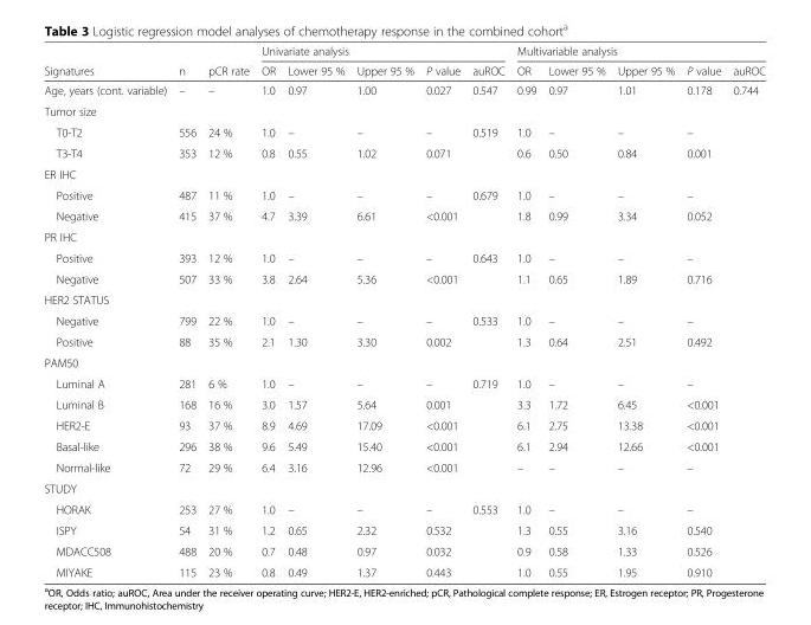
<table><thead><tr><td rowspan="2">Signatures</td><td rowspan="2">n</td><td rowspan="2">pCR rate</td><td colspan="5">Univariate analysis</td><td colspan="5">Multivariable analysis</td></tr><tr><td>OR</td><td>Lower 95 %</td><td>Upper 95 %</td><td>P value</td><td>auROC</td><td>OR</td><td>Lower 95 %</td><td>Upper 95 %</td><td>P value</td><td>auROC</td></tr></thead><tbody><tr><td>Age, years (cont. variable)</td><td>–</td><td>–</td><td>1.0</td><td>0.97</td><td>1.00</td><td>0.027</td><td>0.547</td><td>0.99</td><td>0.97</td><td>1.01</td><td>0.178</td><td rowspan="24">0.744</td></tr><tr><td colspan="12">Tumor size</td></tr><tr><td>T0-T2</td><td>556</td><td>24 %</td><td>1.0</td><td>–</td><td>–</td><td>–</td><td rowspan="2">0.519</td><td>1.0</td><td>–</td><td>–</td><td>–</td></tr><tr><td>T3-T4</td><td>353</td><td>12 %</td><td>0.8</td><td>0.55</td><td>1.02</td><td>0.071</td><td>0.6</td><td>0.50</td><td>0.84</td><td>0.001</td></tr><tr><td colspan="12">ER IHC</td></tr><tr><td>Positive</td><td>487</td><td>11 %</td><td>1.0</td><td>–</td><td>–</td><td>–</td><td rowspan="2">0.679</td><td>1.0</td><td>–</td><td>–</td><td>–</td></tr><tr><td>Negative</td><td>415</td><td>37 %</td><td>4.7</td><td>3.39</td><td>6.61</td><td>&lt;0.001</td><td>1.8</td><td>0.99</td><td>3.34</td><td>0.052</td></tr><tr><td colspan="12">PR IHC</td></tr><tr><td>Positive</td><td>393</td><td>12 %</td><td>1.0</td><td>–</td><td>–</td><td>–</td><td rowspan="2">0.643</td><td>1.0</td><td>–</td><td>–</td><td>–</td></tr><tr><td>Negative</td><td>507</td><td>33 %</td><td>3.8</td><td>2.64</td><td>5.36</td><td>&lt;0.001</td><td>1.1</td><td>0.65</td><td>1.89</td><td>0.716</td></tr><tr><td colspan="12">HER2 STATUS</td></tr><tr><td>Negative</td><td>799</td><td>22 %</td><td>1.0</td><td>–</td><td>–</td><td>–</td><td rowspan="2">0.533</td><td>1.0</td><td>–</td><td>–</td><td>–</td></tr><tr><td>Positive</td><td>88</td><td>35 %</td><td>2.1</td><td>1.30</td><td>3.30</td><td>0.002</td><td>1.3</td><td>0.64</td><td>2.51</td><td>0.492</td></tr><tr><td colspan="12">PAM50</td></tr><tr><td>Luminal A</td><td>281</td><td>6 %</td><td>1.0</td><td>–</td><td>–</td><td>–</td><td rowspan="4">0.719</td><td>1.0</td><td>–</td><td>–</td><td>–</td></tr><tr><td>Luminal B</td><td>168</td><td>16 %</td><td>3.0</td><td>1.57</td><td>5.64</td><td>0.001</td><td>3.3</td><td>1.72</td><td>6.45</td><td>&lt;0.001</td></tr><tr><td>HER2-E</td><td>93</td><td>37 %</td><td>8.9</td><td>4.69</td><td>17.09</td><td>&lt;0.001</td><td>6.1</td><td>2.75</td><td>13.38</td><td>&lt;0.001</td></tr><tr><td>Basal-like</td><td>296</td><td>38 %</td><td>9.6</td><td>5.49</td><td>15.40</td><td>&lt;0.001</td><td>6.1</td><td>2.94</td><td>12.66</td><td>&lt;0.001</td></tr><tr><td>Normal-like</td><td>72</td><td>29 %</td><td>6.4</td><td>3.16</td><td>12.96</td><td>&lt;0.001</td><td></td><td>–</td><td>–</td><td>–</td><td>–</td></tr><tr><td colspan="12">STUDY</td></tr><tr><td>HORAK</td><td>253</td><td>27 %</td><td>1.0</td><td>–</td><td>–</td><td>–</td><td rowspan="4">0.553</td><td>1.0</td><td>–</td><td>–</td><td>–</td></tr><tr><td>ISPY</td><td>54</td><td>31 %</td><td>1.2</td><td>0.65</td><td>2.32</td><td>0.532</td><td>1.3</td><td>0.55</td><td>3.16</td><td>0.540</td></tr><tr><td>MDACC508</td><td>488</td><td>20 %</td><td>0.7</td><td>0.48</td><td>0.97</td><td>0.032</td><td>0.9</td><td>0.58</td><td>1.33</td><td>0.526</td></tr><tr><td>MIYAKE</td><td>115</td><td>23 %</td><td>0.8</td><td>0.49</td><td>1.37</td><td>0.443</td><td>1.0</td><td>0.55</td><td>1.95</td><td>0.910</td></tr></tbody></table>